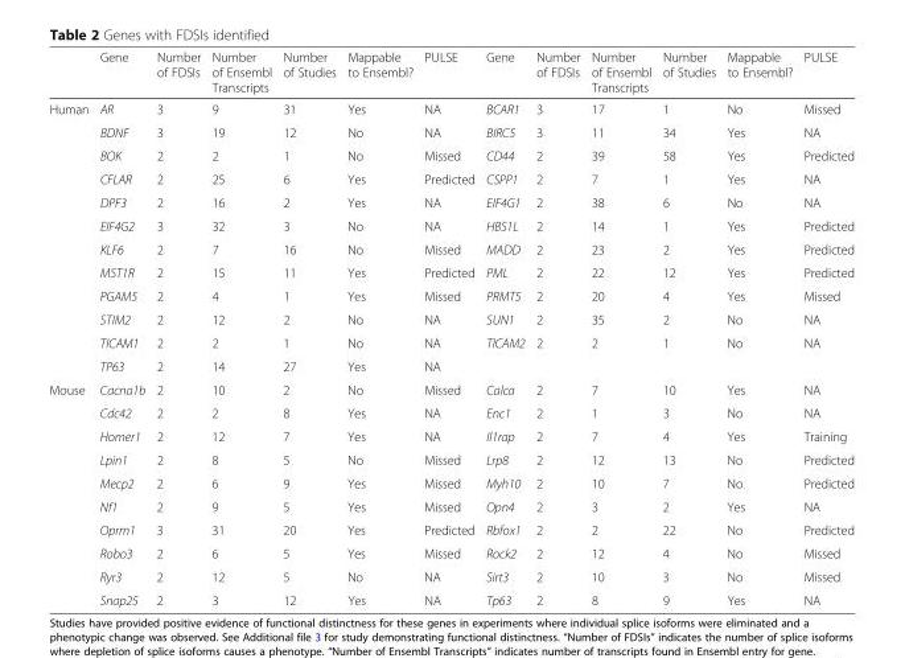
<table><thead><tr><td></td><td>Gene</td><td>Number of FDSIs</td><td>Number of Ensembl Transcripts</td><td>Number of Studies</td><td>Mappable to Ensembl?</td><td>PULSE</td><td>Gene</td><td>Number of FDSIs</td><td>Number of Ensembl Transcripts</td><td>Number of Studies</td><td>Mappable to Ensembl?</td><td>PULSE</td></tr></thead><tbody><tr><td rowspan="12">Human</td><td>AR</td><td>3</td><td>9</td><td>31</td><td>Yes</td><td>NA</td><td>BCAR1</td><td>3</td><td>17</td><td>1</td><td>No</td><td>Missed</td></tr><tr><td>BDNF</td><td>3</td><td>19</td><td>12</td><td>No</td><td>NA</td><td>BIRC5</td><td>3</td><td>11</td><td>34</td><td>Yes</td><td>NA</td></tr><tr><td>BOK</td><td>2</td><td>2</td><td>1</td><td>No</td><td>Missed</td><td>CD44</td><td>2</td><td>39</td><td>58</td><td>Yes</td><td>Predicted</td></tr><tr><td>CFLAR</td><td>2</td><td>25</td><td>6</td><td>Yes</td><td>Predicted</td><td>CSPP1</td><td>2</td><td>7</td><td>1</td><td>Yes</td><td>NA</td></tr><tr><td>DPF3</td><td>2</td><td>16</td><td>2</td><td>Yes</td><td>NA</td><td>EIF4G1</td><td>2</td><td>38</td><td>6</td><td>No</td><td>NA</td></tr><tr><td>EIF4G2</td><td>3</td><td>32</td><td>3</td><td>No</td><td>NA</td><td>HBS1L</td><td>2</td><td>14</td><td>1</td><td>Yes</td><td>Predicted</td></tr><tr><td>KLF6</td><td>2</td><td>7</td><td>16</td><td>No</td><td>Missed</td><td>MADD</td><td>2</td><td>23</td><td>2</td><td>Yes</td><td>Predicted</td></tr><tr><td>MST1R</td><td>2</td><td>15</td><td>11</td><td>Yes</td><td>Predicted</td><td>PML</td><td>2</td><td>22</td><td>12</td><td>Yes</td><td>Predicted</td></tr><tr><td>PGAM5</td><td>2</td><td>4</td><td>1</td><td>Yes</td><td>Missed</td><td>PRMT5</td><td>2</td><td>20</td><td>4</td><td>Yes</td><td>Missed</td></tr><tr><td>STIM2</td><td>2</td><td>12</td><td>2</td><td>No</td><td>NA</td><td>SUN1</td><td>2</td><td>35</td><td>2</td><td>No</td><td>NA</td></tr><tr><td>TICAM1</td><td>2</td><td>2</td><td>1</td><td>No</td><td>NA</td><td>TICAM2</td><td>2</td><td>2</td><td>1</td><td>No</td><td>NA</td></tr><tr><td>TP63</td><td>2</td><td>14</td><td>27</td><td>Yes</td><td>NA</td><td></td><td></td><td></td><td></td><td></td><td></td></tr><tr><td rowspan="10">Mouse</td><td>Cacna1b</td><td>2</td><td>10</td><td>2</td><td>No</td><td>Missed</td><td>Calca</td><td>2</td><td>7</td><td>10</td><td>Yes</td><td>NA</td></tr><tr><td>Cdc42</td><td>2</td><td>2</td><td>8</td><td>Yes</td><td>NA</td><td>Enc1</td><td>2</td><td>1</td><td>3</td><td>No</td><td>NA</td></tr><tr><td>Homer1</td><td>2</td><td>12</td><td>7</td><td>Yes</td><td>NA</td><td>Il1rap</td><td>2</td><td>7</td><td>4</td><td>Yes</td><td>Training</td></tr><tr><td>Lpin1</td><td>2</td><td>8</td><td>5</td><td>No</td><td>Missed</td><td>Lrp8</td><td>2</td><td>12</td><td>13</td><td>No</td><td>Predicted</td></tr><tr><td>Mecp2</td><td>2</td><td>6</td><td>9</td><td>Yes</td><td>Missed</td><td>Myh10</td><td>2</td><td>10</td><td>7</td><td>No</td><td>Predicted</td></tr><tr><td>Nf1</td><td>2</td><td>9</td><td>5</td><td>Yes</td><td>Missed</td><td>Opn4</td><td>2</td><td>3</td><td>2</td><td>Yes</td><td>NA</td></tr><tr><td>Oprm1</td><td>3</td><td>31</td><td>20</td><td>Yes</td><td>Predicted</td><td>Rbfox1</td><td>2</td><td>2</td><td>22</td><td>No</td><td>Predicted</td></tr><tr><td>Robo3</td><td>2</td><td>6</td><td>5</td><td>Yes</td><td>Missed</td><td>Rock2</td><td>2</td><td>12</td><td>4</td><td>No</td><td>Missed</td></tr><tr><td>Ryr3</td><td>2</td><td>12</td><td>5</td><td>No</td><td>NA</td><td>Sirt3</td><td>2</td><td>10</td><td>3</td><td>No</td><td>Missed</td></tr><tr><td>Snap25</td><td>2</td><td>3</td><td>12</td><td>Yes</td><td>NA</td><td>Tp63</td><td>2</td><td>8</td><td>9</td><td>Yes</td><td>NA</td></tr></tbody></table>